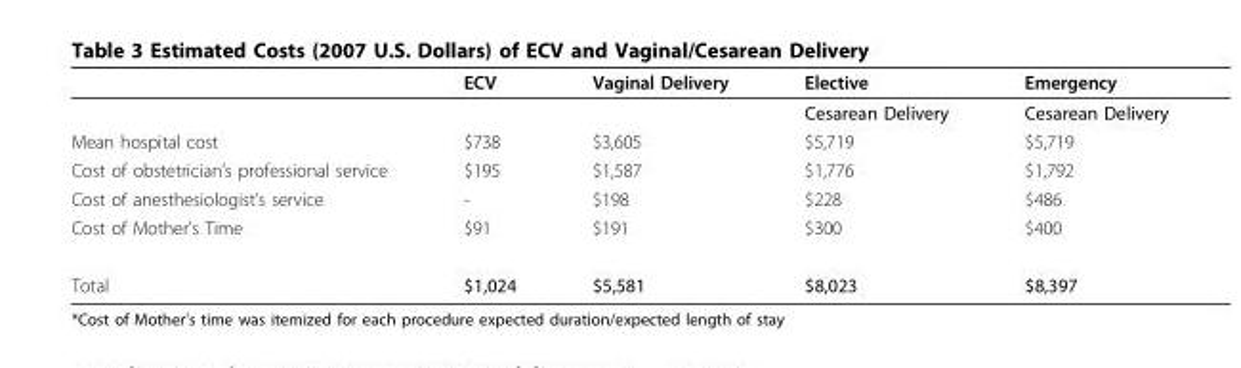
<table><thead><tr><td rowspan="2"></td><td rowspan="2">ECV</td><td rowspan="2">Vaginal Delivery</td><td rowspan="2">Elective Cesarean Delivery</td><td rowspan="2">Emergency Cesarean Delivery</td></tr><tr></tr></thead><tbody><tr><td>Mean hospital cost</td><td>$738</td><td>$3,605</td><td>$5,719</td><td>$5,719</td></tr><tr><td>Cost of obstetrician’s professional service</td><td>$195</td><td>$1,587</td><td>$1,776</td><td>$1,792</td></tr><tr><td>Cost of anesthesiologist’s service</td><td>-</td><td>$198</td><td>$228</td><td>$486</td></tr><tr><td>Cost of Mother’s Time</td><td>$91</td><td>$191</td><td>$300</td><td>$400</td></tr><tr><td>Total</td><td>$1,024</td><td>$5,581</td><td>$8,023</td><td>$8,397</td></tr></tbody></table>